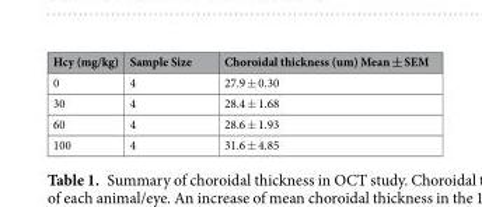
<table><thead><tr><td>Hcy (mg/kg)</td><td>Sample Size</td><td>Choroidal thickness (um) Mean ± SEM</td></tr></thead><tbody><tr><td>0</td><td>4</td><td>27.9 ± 0.30</td></tr><tr><td>30</td><td>4</td><td>28.4 ± 1.68</td></tr><tr><td>60</td><td>4</td><td>28.6 ± 1.93</td></tr><tr><td>100</td><td>4</td><td>31.6 ± 4.85</td></tr></tbody></table>